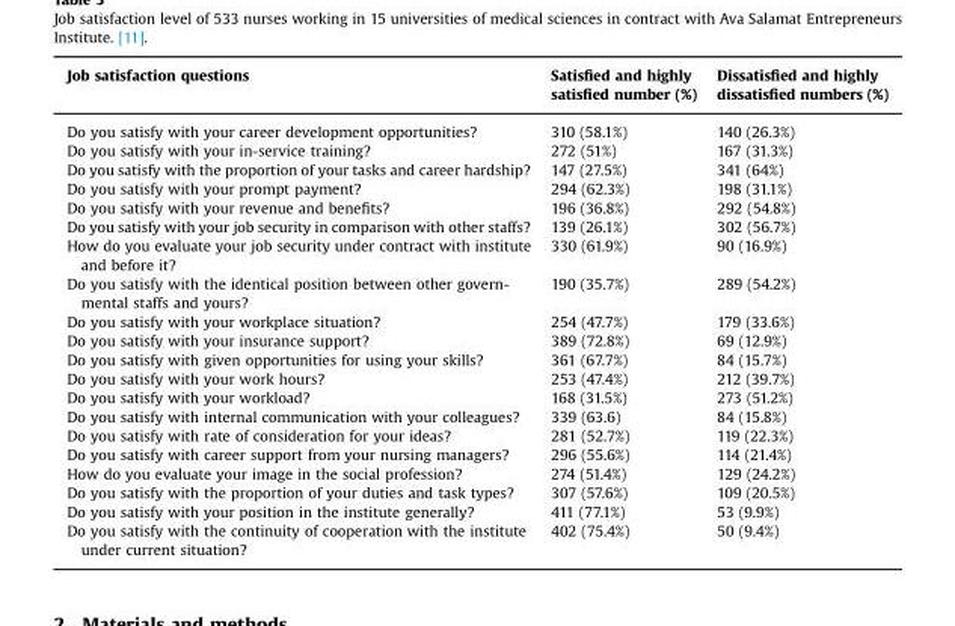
<table><thead><tr><td>Job satisfaction questions</td><td>Satisfied and highly satisfied number (%)</td><td>Dissatisfied and highly dissatisfied numbers (%)</td></tr></thead><tbody><tr><td>Do you satisfy with your career development opportunities?</td><td>310 (58.1%)</td><td>140 (26.3%)</td></tr><tr><td>Do you satisfy with your in-service training?</td><td>272 (51%)</td><td>167 (31.3%)</td></tr><tr><td>Do you satisfy with the proportion of your tasks and career hardship?</td><td>147 (27.5%)</td><td>341 (64%)</td></tr><tr><td>Do you satisfy with your prompt payment?</td><td>294 (62.3%)</td><td>198 (31.1%)</td></tr><tr><td>Do you satisfy with your revenue and benefits?</td><td>196 (36.8%)</td><td>292 (54.8%)</td></tr><tr><td>Do you satisfy with your job security in comparison with other staffs?</td><td>139 (26.1%)</td><td>302 (56.7%)</td></tr><tr><td>How do you evaluate your job security under contract with institute and before it?</td><td>330 (61.9%)</td><td>90 (16.9%)</td></tr><tr><td>Do you satisfy with the identical position between other govern- mental staffs and yours?</td><td>190 (35.7%)</td><td>289 (54.2%)</td></tr><tr><td>Do you satisfy with your workplace situation?</td><td>254 (47.7%)</td><td>179 (33.6%)</td></tr><tr><td>Do you satisfy with your insurance support?</td><td>389 (72.8%)</td><td>69 (12.9%)</td></tr><tr><td>Do you satisfy with given opportunities for using your skills?</td><td>361 (67.7%)</td><td>84 (15.7%)</td></tr><tr><td>Do you satisfy with your work hours?</td><td>253 (47.4%)</td><td>212 (39.7%)</td></tr><tr><td>Do you satisfy with your workload?</td><td>168 (31.5%)</td><td>273 (51.2%)</td></tr><tr><td>Do you satisfy with internal communication with your colleagues?</td><td>339 (63.6)</td><td>84 (15.8%)</td></tr><tr><td>Do you satisfy with rate of consideration for your ideas?</td><td>281 (52.7%)</td><td>119 (22.3%)</td></tr><tr><td>Do you satisfy with career support from your nursing managers?</td><td>296 (55.6%)</td><td>114 (21.4%)</td></tr><tr><td>How do you evaluate your image in the social profession?</td><td>274 (51.4%)</td><td>129 (24.2%)</td></tr><tr><td>Do you satisfy with the proportion of your duties and task types?</td><td>307 (57.6%)</td><td>109 (20.5%)</td></tr><tr><td>Do you satisfy with your position in the institute generally?</td><td>411 (77.1%)</td><td>53 (9.9%)</td></tr><tr><td>Do you satisfy with the continuity of cooperation with the institute under current situation?</td><td>402 (75.4%)</td><td>50 (9.4%)</td></tr></tbody></table>